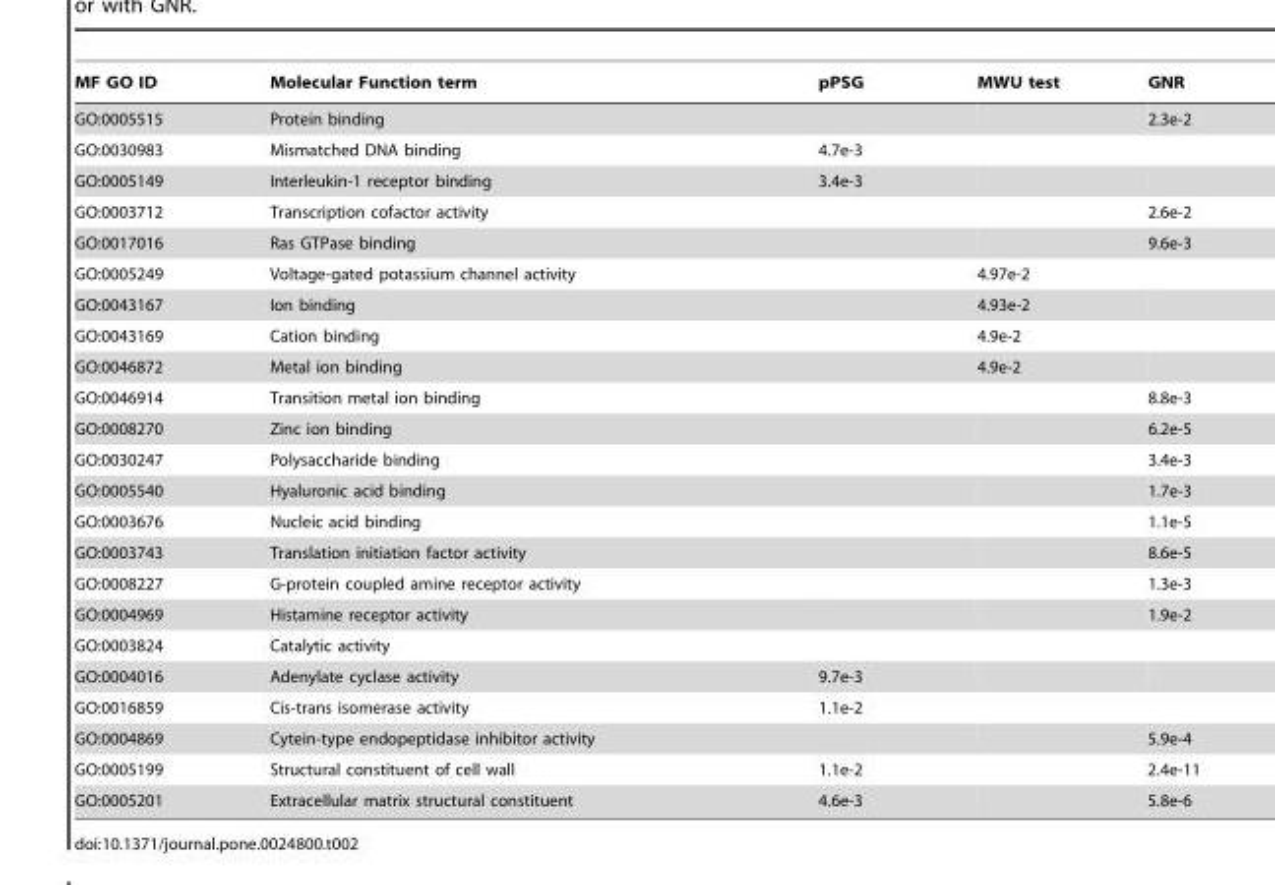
<table><thead><tr><td>MF GO ID</td><td>Molecular Function term</td><td>pPSG</td><td>MWU test</td><td>GNR</td></tr></thead><tbody><tr><td>GO:0005515</td><td>Protein binding</td><td></td><td></td><td>2.3e-2</td></tr><tr><td>GO:0030983</td><td>Mismatched DNA binding</td><td>4.7e-3</td><td></td><td></td></tr><tr><td>GO:0005149</td><td>Interleukin-1 receptor binding</td><td>3.4e-3</td><td></td><td></td></tr><tr><td>GO:0003712</td><td>Transcription cofactor activity</td><td></td><td></td><td>2.6e-2</td></tr><tr><td>GO:0017016</td><td>Ras GTPase binding</td><td></td><td></td><td>9.6e-3</td></tr><tr><td>GO:0005249</td><td>Voltage-gated potassium channel activity</td><td></td><td>4.97e-2</td><td></td></tr><tr><td>GO:0043167</td><td>Ion binding</td><td></td><td>4.93e-2</td><td></td></tr><tr><td>GO:0043169</td><td>Cation binding</td><td></td><td>4.9e-2</td><td></td></tr><tr><td>GO:0046872</td><td>Metal ion binding</td><td></td><td>4.9e-2</td><td></td></tr><tr><td>GO:0046914</td><td>Transition metal ion binding</td><td></td><td></td><td>8.8e-3</td></tr><tr><td>GO:0008270</td><td>Zinc ion binding</td><td></td><td></td><td>6.2e-5</td></tr><tr><td>GO:0030247</td><td>Polysaccharide binding</td><td></td><td></td><td>3.4e-3</td></tr><tr><td>GO:0005540</td><td>Hyaluronic acid binding</td><td></td><td></td><td>1.7e-3</td></tr><tr><td>GO:0003676</td><td>Nucleic acid binding</td><td></td><td></td><td>1.1e-5</td></tr><tr><td>GO:0003743</td><td>Translation initiation factor activity</td><td></td><td></td><td>8.6e-5</td></tr><tr><td>GO:0008227</td><td>G-protein coupled amine receptor activity</td><td></td><td></td><td>1.3e-3</td></tr><tr><td>GO:0004969</td><td>Histamine receptor activity</td><td></td><td></td><td>1.9e-2</td></tr><tr><td>GO:0003824</td><td>Catalytic activity</td><td></td><td></td><td></td></tr><tr><td>GO:0004016</td><td>Adenylate cyclase activity</td><td>9.7e-3</td><td></td><td></td></tr><tr><td>GO:0016859</td><td>Cis-trans isomerase activity</td><td>1.1e-2</td><td></td><td></td></tr><tr><td>GO:0004869</td><td>Cytein-type endopeptidase inhibitor activity</td><td></td><td></td><td>5.9e-4</td></tr><tr><td>GO:0005199</td><td>Structural constituent of cell wall</td><td>1.1e-2</td><td></td><td>2.4e-11</td></tr><tr><td>GO:0005201</td><td>Extracellular matrix structural constituent</td><td>4.6e-3</td><td></td><td>5.8e-6</td></tr></tbody></table>